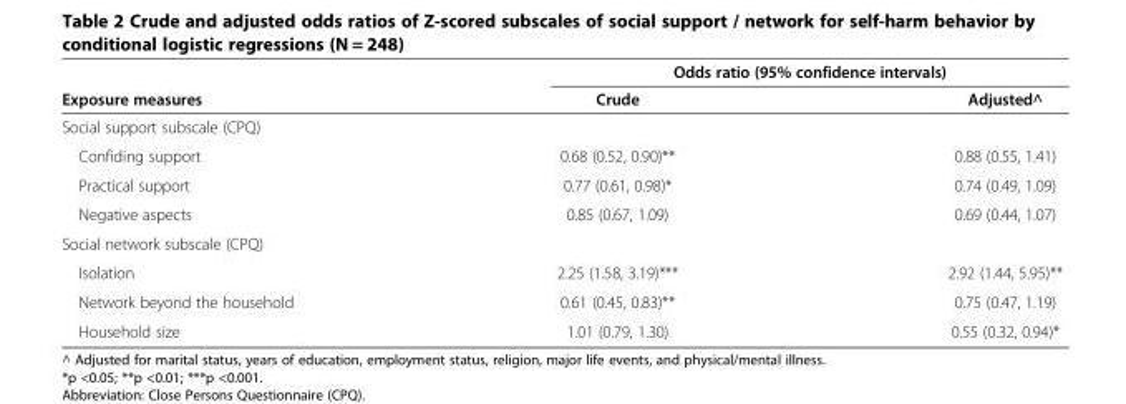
<table><thead><tr><td rowspan="2">Exposure measures</td><td colspan="2">Odds ratio (95% confidence intervals)</td></tr><tr><td>Crude</td><td>Adjusted^</td></tr></thead><tbody><tr><td colspan="3">Social support subscale (CPQ)</td></tr><tr><td>Confiding support</td><td>0.68 (0.52, 0.90)**</td><td>0.88 (0.55, 1.41)</td></tr><tr><td>Practical support</td><td>0.77 (0.61, 0.98)*</td><td>0.74 (0.49, 1.09)</td></tr><tr><td>Negative aspects</td><td>0.85 (0.67, 1.09)</td><td>0.69 (0.44, 1.07)</td></tr><tr><td colspan="3">Social network subscale (CPQ)</td></tr><tr><td>Isolation</td><td>2.25 (1.58, 3.19)***</td><td>2.92 (1.44, 5.95)**</td></tr><tr><td>Network beyond the household</td><td>0.61 (0.45, 0.83)**</td><td>0.75 (0.47, 1.19)</td></tr><tr><td>Household size</td><td>1.01 (0.79, 1.30)</td><td>0.55 (0.32, 0.94)*</td></tr></tbody></table>